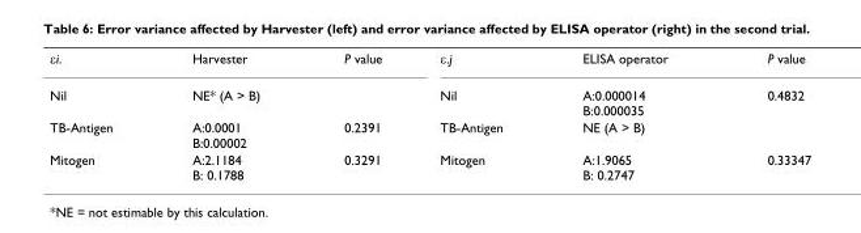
<table><tbody><tr><td>εi.</td><td>Harvester</td><td>P value</td><td>ε.j</td><td>ELISA operator</td><td>P value</td></tr><tr><td>Nil</td><td>NE* (A &gt; B)</td><td></td><td>Nil</td><td>A:0.000014 B:0.000035</td><td>0.4832</td></tr><tr><td>TB-Antigen</td><td>A:0.0001 B:0.00002</td><td>0.2391</td><td>TB-Antigen</td><td>NE (A &gt; B)</td><td></td></tr><tr><td>Mitogen</td><td>A:2.1184 B: 0.1788</td><td>0.3291</td><td>Mitogen</td><td>A:1.9065 B: 0.2747</td><td>0.33347</td></tr></tbody></table>